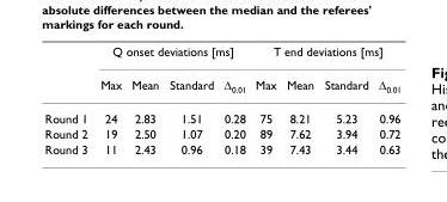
<table><thead><tr><td rowspan="2"></td><td colspan="4">Q onset deviations [ms]</td><td colspan="4">T end deviations [ms]</td></tr><tr><td>Max</td><td>Mean</td><td>Standard</td><td>∆0.01</td><td>Max</td><td>Mean</td><td>Standard</td><td>∆0.01</td></tr></thead><tbody><tr><td>Round 1</td><td>24</td><td>2.83</td><td>1.51</td><td>0.28</td><td>75</td><td>8.21</td><td>5.23</td><td>0.96</td></tr><tr><td>Round 2</td><td>19</td><td>2.50</td><td>1.07</td><td>0.20</td><td>89</td><td>7.62</td><td>3.94</td><td>0.72</td></tr><tr><td>Round 3</td><td>11</td><td>2.43</td><td>0.96</td><td>0.18</td><td>39</td><td>7.43</td><td>3.44</td><td>0.63</td></tr></tbody></table>